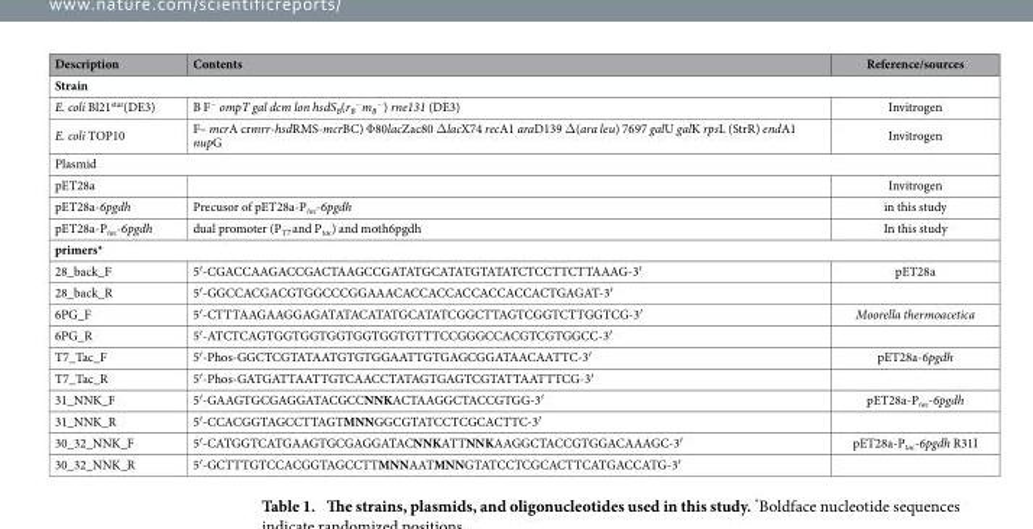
<table><thead><tr><td>Description</td><td>Contents</td><td>Reference/sources</td></tr></thead><tbody><tr><td colspan="3">Strain</td></tr><tr><td>E. coli Bl21<sup>star</sup>(DE3)</td><td>B F<sup>−</sup> ompT gal dcm lon hsdS<sub>B</sub>(r<sub>B</sub> <sup>−</sup>m<sub>B</sub> <sup>−</sup>) rne131 (DE3)</td><td>Invitrogen</td></tr><tr><td>E. coli TOP10</td><td>F– mcrA crmrr-hsdRMS-mcrBC) Φ 80lacZac80 Δ lacX74 recA1 araD139 Δ (ara leu) 7697 galU galK rpsL (StrR) endA1 nupG</td><td>Invitrogen</td></tr><tr><td colspan="3">Plasmid</td></tr><tr><td>pET28a</td><td></td><td>Invitrogen</td></tr><tr><td>pET28a-6pgdh</td><td>Precusor of pET28a-P<sub>tac</sub>-6pgdh</td><td>in this study</td></tr><tr><td>pET28a-P<sub>tac</sub>-6pgdh</td><td>dual promoter (P<sub>T7</sub> and P<sub>tac</sub>) and moth6pgdh</td><td>In this study</td></tr><tr><td colspan="3">primers*</td></tr><tr><td>28_back_F</td><td>5′ -CGACCAAGACCGACTAAGCCGATATGCATATGTATATCTCCTTCTTAAAG-3′</td><td>pET28a</td></tr><tr><td>28_back_R</td><td>5′ -GGCCACGACGTGGCCCGGAAACACCACCACCACCACCACTGAGAT-3′</td><td></td></tr><tr><td>6PG_F</td><td>5′ -CTTTAAGAAGGAGATATACATATGCATATCGGCTTAGTCGGTCTTGGTCG-3′</td><td>Moorella thermoacetica</td></tr><tr><td>6PG_R</td><td>5′ -ATCTCAGTGGTGGTGGTGGTGGTGTTTCCGGGCCACGTCGTGGCC-3′</td><td></td></tr><tr><td>T7_Tac_F</td><td>5′ -Phos-GGCTCGTATAATGTGTGGAATTGTGAGCGGATAACAATTC-3′</td><td>pET28a-6pgdh</td></tr><tr><td>T7_Tac_R</td><td>5′ -Phos-GATGATTAATTGTCAACCTATAGTGAGTCGTATTAATTTCG-3′</td><td></td></tr><tr><td>31_NNK_F</td><td>5′ -GAAGTGCGAGGATACGCCNNKACTAAGGCTACCGTGG-3′</td><td>pET28a-P<sub>tac</sub>-6pgdh</td></tr><tr><td>31_NNK_R</td><td>5′ -CCACGGTAGCCTTAGTMNNGGCGTATCCTCGCACTTC-3′</td><td></td></tr><tr><td>30_32_NNK_F</td><td>5′ -CATGGTCATGAAGTGCGAGGATACNNKATTNNKAAGGCTACCGTGGACAAAGC-3′</td><td>pET28a-P<sub>tac</sub>-6pgdh R31I</td></tr><tr><td>30_32_NNK_R</td><td>5′ -GCTTTGTCCACGGTAGCCTTMNNAATMNNGTATCCTCGCACTTCATGACCATG-3′</td><td></td></tr></tbody></table>